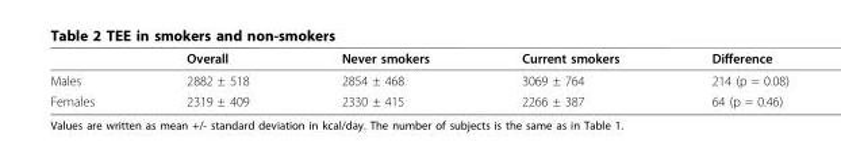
<table><thead><tr><td></td><td>Overall</td><td>Never smokers</td><td>Current smokers</td><td>Difference</td></tr></thead><tbody><tr><td>Males</td><td>2882 ± 518</td><td>2854 ± 468</td><td>3069 ± 764</td><td>214 (p = 0.08)</td></tr><tr><td>Females</td><td>2319 ± 409</td><td>2330 ± 415</td><td>2266 ± 387</td><td>64 (p = 0.46)</td></tr></tbody></table>